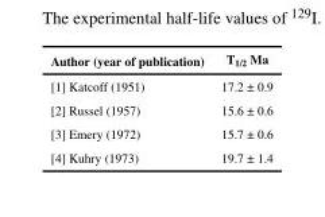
<table><thead><tr><td>Author (year of publication)</td><td>T<sub>1/2</sub> Ma</td></tr></thead><tbody><tr><td>[1] Katcoff (1951)</td><td>17.2 ± 0.9</td></tr><tr><td>[2] Russel (1957)</td><td>15.6 ± 0.6</td></tr><tr><td>[3] Emery (1972)</td><td>15.7 ± 0.6</td></tr><tr><td>[4] Kuhry (1973)</td><td>19.7 ± 1.4</td></tr></tbody></table>